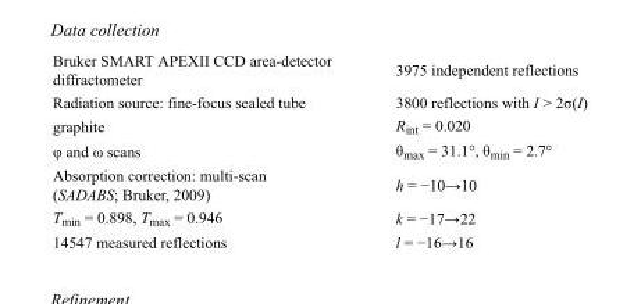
<table><tbody><tr><td>Bruker SMART APEXII CCD area-detector diffractometer</td><td>3975 independent reflections</td></tr><tr><td>Radiation source: fine-focus sealed tube</td><td>3800 reflections with I &gt; 2σ(I)</td></tr><tr><td>graphite</td><td>R<sub>int</sub> = 0.020</td></tr><tr><td>φ and ω scans</td><td>θ<sub>max</sub> = 31.1°, θ<sub>min</sub> = 2.7°</td></tr><tr><td>Absorption correction: multi-scan (SADABS; Bruker, 2009)</td><td>h = −10→10</td></tr><tr><td>T<sub>min</sub> = 0.898, T<sub>max</sub> = 0.946</td><td>k = −17→22</td></tr><tr><td>14547 measured reflections</td><td>l = −16→16</td></tr></tbody></table>